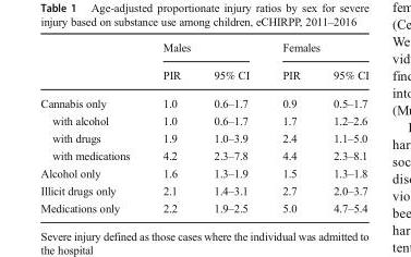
<table><thead><tr><td rowspan="2"></td><td colspan="2">Males</td><td colspan="2">Females</td></tr><tr><td>PIR</td><td>95% CI</td><td>PIR</td><td>95% CI</td></tr></thead><tbody><tr><td>Cannabis only</td><td>1.0</td><td>0.6–1.7</td><td>0.9</td><td>0.5–1.7</td></tr><tr><td>with alcohol</td><td>1.0</td><td>0.6–1.7</td><td>1.7</td><td>1.2–2.6</td></tr><tr><td>with drugs</td><td>1.9</td><td>1.0–3.9</td><td>2.4</td><td>1.1–5.0</td></tr><tr><td>with medications</td><td>4.2</td><td>2.3–7.8</td><td>4.4</td><td>2.3–8.1</td></tr><tr><td>Alcohol only</td><td>1.6</td><td>1.3–1.9</td><td>1.5</td><td>1.3–1.8</td></tr><tr><td>Illicit drugs only</td><td>2.1</td><td>1.4–3.1</td><td>2.7</td><td>2.0–3.7</td></tr><tr><td>Medications only</td><td>2.2</td><td>1.9–2.5</td><td>5.0</td><td>4.7–5.4</td></tr></tbody></table>